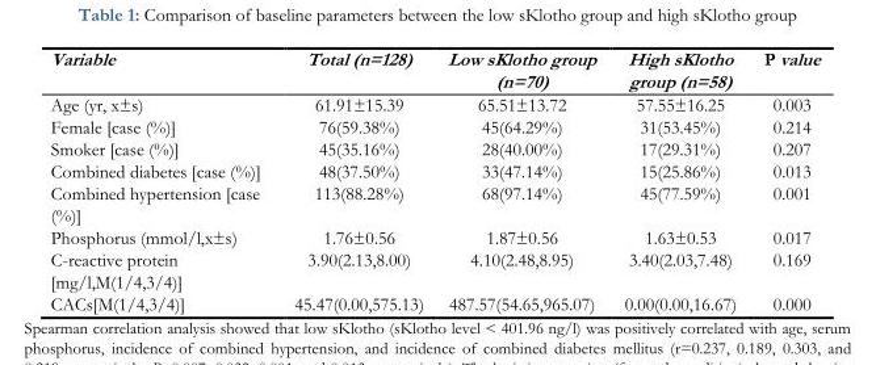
<table><thead><tr><td>Variable</td><td>Total (n=128)</td><td>Low sKlotho group (n=70)</td><td>High sKlotho group (n=58)</td><td>P value</td></tr></thead><tbody><tr><td>Age (yr, х±s)</td><td>61.91±15.39</td><td>65.51±13.72</td><td>57.55±16.25</td><td>0.003</td></tr><tr><td>Female [case (%)]</td><td>76(59.38%)</td><td>45(64.29%)</td><td>31(53.45%)</td><td>0.214</td></tr><tr><td>Smoker [case (%)]</td><td>45(35.16%)</td><td>28(40.00%)</td><td>17(29.31%)</td><td>0.207</td></tr><tr><td>Combined diabetes [case (%)]</td><td>48(37.50%)</td><td>33(47.14%)</td><td>15(25.86%)</td><td>0.013</td></tr><tr><td>Combined hypertension [case (%)]</td><td>113(88.28%)</td><td>68(97.14%)</td><td>45(77.59%)</td><td>0.001</td></tr><tr><td>Phosphorus (mmol/l,х±s)</td><td>1.76±0.56</td><td>1.87±0.56</td><td>1.63±0.53</td><td>0.017</td></tr><tr><td>C-reactive protein [mg/l,M(1/4,3/4)]</td><td>3.90(2.13,8.00)</td><td>4.10(2.48,8.95)</td><td>3.40(2.03,7.48)</td><td>0.169</td></tr><tr><td>CACs[M(1/4,3/4)]</td><td>45.47(0.00,575.13)</td><td>487.57(54.65,965.07)</td><td>0.00(0.00,16.67)</td><td>0.000</td></tr></tbody></table>